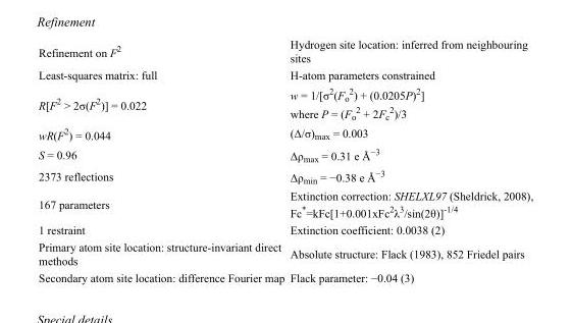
<table><tbody><tr><td>Refinement on F<sup>2</sup></td><td>Hydrogen site location: inferred from neighbouring sites</td></tr><tr><td>Least-squares matrix: full</td><td>H-atom parameters constrained</td></tr><tr><td>R[F<sup>2</sup> &gt; 2σ(F<sup>2</sup>)] = 0.022</td><td>w = 1/[σ<sup>2</sup>(F<sub>o</sub> <sup>2</sup>) + (0.0205P)<sup>2</sup>] where P = (F<sub>o</sub> <sup>2</sup> + 2F<sub>c</sub> <sup>2</sup>)/3</td></tr><tr><td>wR(F<sup>2</sup>) = 0.044</td><td>(Δ/σ)<sub>max</sub> = 0.003</td></tr><tr><td>S = 0.96</td><td>Δρ<sub>max</sub> = 0.31 e Å<sup>−3</sup></td></tr><tr><td>2373 reflections</td><td>Δρ<sub>min</sub> = −0.38 e Å<sup>−3</sup></td></tr><tr><td>167 parameters</td><td>Extinction correction: SHELXL97 (Sheldrick, 2008), Fc*=kFc[1+0.001xFc<sup>2</sup>λ<sup>3</sup>/sin(2θ)]<sup>-1/4</sup></td></tr><tr><td>1 restraint</td><td>Extinction coefficient: 0.0038 (2)</td></tr><tr><td>Primary atom site location: structure-invariant direct methods</td><td>Absolute structure: Flack (1983), 852 Friedel pairs</td></tr><tr><td>Secondary atom site location: difference Fourier map</td><td>Flack parameter: −0.04 (3)</td></tr></tbody></table>